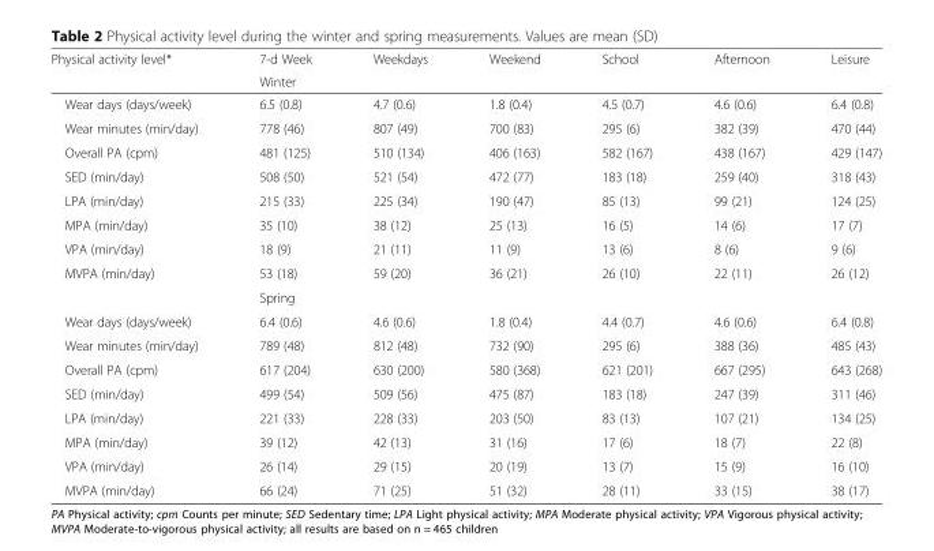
<table><thead><tr><td rowspan="2">Physical activity level*</td><td>7-d Week</td><td>Weekdays</td><td>Weekend</td><td>School</td><td>Afternoon</td><td>Leisure</td></tr><tr><td colspan="6">Winter</td></tr></thead><tbody><tr><td>Wear days (days/week)</td><td>6.5 (0.8)</td><td>4.7 (0.6)</td><td>1.8 (0.4)</td><td>4.5 (0.7)</td><td>4.6 (0.6)</td><td>6.4 (0.8)</td></tr><tr><td>Wear minutes (min/day)</td><td>778 (46)</td><td>807 (49)</td><td>700 (83)</td><td>295 (6)</td><td>382 (39)</td><td>470 (44)</td></tr><tr><td>Overall PA (cpm)</td><td>481 (125)</td><td>510 (134)</td><td>406 (163)</td><td>582 (167)</td><td>438 (167)</td><td>429 (147)</td></tr><tr><td>SED (min/day)</td><td>508 (50)</td><td>521 (54)</td><td>472 (77)</td><td>183 (18)</td><td>259 (40)</td><td>318 (43)</td></tr><tr><td>LPA (min/day)</td><td>215 (33)</td><td>225 (34)</td><td>190 (47)</td><td>85 (13)</td><td>99 (21)</td><td>124 (25)</td></tr><tr><td>MPA (min/day)</td><td>35 (10)</td><td>38 (12)</td><td>25 (13)</td><td>16 (5)</td><td>14 (6)</td><td>17 (7)</td></tr><tr><td>VPA (min/day)</td><td>18 (9)</td><td>21 (11)</td><td>11 (9)</td><td>13 (6)</td><td>8 (6)</td><td>9 (6)</td></tr><tr><td rowspan="2">MVPA (min/day)</td><td>53 (18)</td><td>59 (20)</td><td>36 (21)</td><td>26 (10)</td><td>22 (11)</td><td>26 (12)</td></tr><tr><td colspan="6">Spring</td></tr><tr><td>Wear days (days/week)</td><td>6.4 (0.6)</td><td>4.6 (0.6)</td><td>1.8 (0.4)</td><td>4.4 (0.7)</td><td>4.6 (0.6)</td><td>6.4 (0.8)</td></tr><tr><td>Wear minutes (min/day)</td><td>789 (48)</td><td>812 (48)</td><td>732 (90)</td><td>295 (6)</td><td>388 (36)</td><td>485 (43)</td></tr><tr><td>Overall PA (cpm)</td><td>617 (204)</td><td>630 (200)</td><td>580 (368)</td><td>621 (201)</td><td>667 (295)</td><td>643 (268)</td></tr><tr><td>SED (min/day)</td><td>499 (54)</td><td>509 (56)</td><td>475 (87)</td><td>183 (18)</td><td>247 (39)</td><td>311 (46)</td></tr><tr><td>LPA (min/day)</td><td>221 (33)</td><td>228 (33)</td><td>203 (50)</td><td>83 (13)</td><td>107 (21)</td><td>134 (25)</td></tr><tr><td>MPA (min/day)</td><td>39 (12)</td><td>42 (13)</td><td>31 (16)</td><td>17 (6)</td><td>18 (7)</td><td>22 (8)</td></tr><tr><td>VPA (min/day)</td><td>26 (14)</td><td>29 (15)</td><td>20 (19)</td><td>13 (7)</td><td>15 (9)</td><td>16 (10)</td></tr><tr><td>MVPA (min/day)</td><td>66 (24)</td><td>71 (25)</td><td>51 (32)</td><td>28 (11)</td><td>33 (15)</td><td>38 (17)</td></tr></tbody></table>